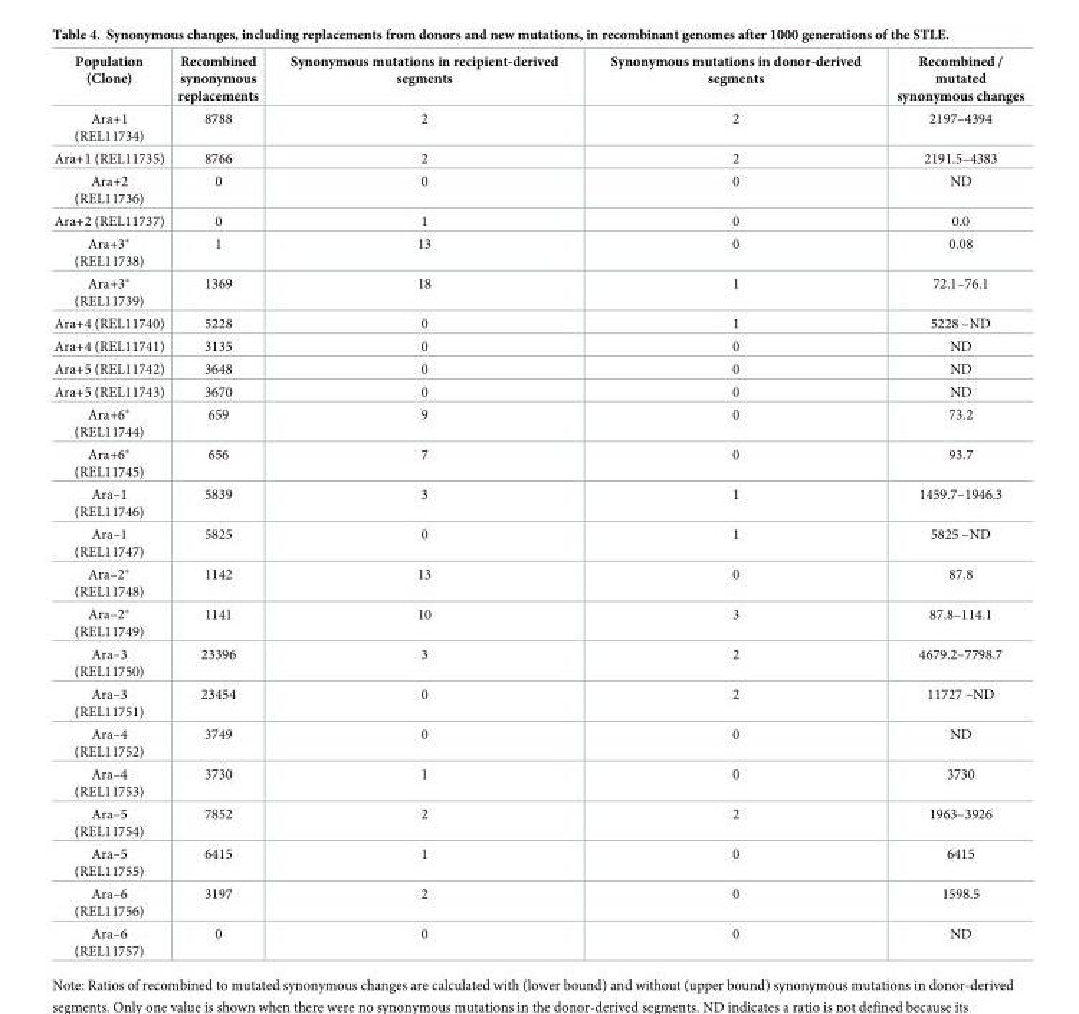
<table><thead><tr><td>Population (Clone)</td><td>Recombined synonymous replacements</td><td>Synonymous mutations in recipient-derived segments</td><td>Synonymous mutations in donor-derived segments</td><td>Recombined / mutated synonymous changes</td></tr></thead><tbody><tr><td>Ara+1 (REL11734)</td><td>8788</td><td>2</td><td>2</td><td>2197–4394</td></tr><tr><td>Ara+1 (REL11735)</td><td>8766</td><td>2</td><td>2</td><td>2191.5–4383</td></tr><tr><td>Ara+2 (REL11736)</td><td>0</td><td>0</td><td>0</td><td>ND</td></tr><tr><td>Ara+2 (REL11737)</td><td>0</td><td>1</td><td>0</td><td>0.0</td></tr><tr><td>Ara+3* (REL11738)</td><td>1</td><td>13</td><td>0</td><td>0.08</td></tr><tr><td>Ara+3* (REL11739)</td><td>1369</td><td>18</td><td>1</td><td>72.1–76.1</td></tr><tr><td>Ara+4 (REL11740)</td><td>5228</td><td>0</td><td>1</td><td>5228 –ND</td></tr><tr><td>Ara+4 (REL11741)</td><td>3135</td><td>0</td><td>0</td><td>ND</td></tr><tr><td>Ara+5 (REL11742)</td><td>3648</td><td>0</td><td>0</td><td>ND</td></tr><tr><td>Ara+5 (REL11743)</td><td>3670</td><td>0</td><td>0</td><td>ND</td></tr><tr><td>Ara+6* (REL11744)</td><td>659</td><td>9</td><td>0</td><td>73.2</td></tr><tr><td>Ara+6* (REL11745)</td><td>656</td><td>7</td><td>0</td><td>93.7</td></tr><tr><td>Ara–1 (REL11746)</td><td>5839</td><td>3</td><td>1</td><td>1459.7–1946.3</td></tr><tr><td>Ara–1 (REL11747)</td><td>5825</td><td>0</td><td>1</td><td>5825 –ND</td></tr><tr><td>Ara–2* (REL11748)</td><td>1142</td><td>13</td><td>0</td><td>87.8</td></tr><tr><td>Ara–2* (REL11749)</td><td>1141</td><td>10</td><td>3</td><td>87.8–114.1</td></tr><tr><td>Ara–3 (REL11750)</td><td>23396</td><td>3</td><td>2</td><td>4679.2–7798.7</td></tr><tr><td>Ara–3 (REL11751)</td><td>23454</td><td>0</td><td>2</td><td>11727 –ND</td></tr><tr><td>Ara–4 (REL11752)</td><td>3749</td><td>0</td><td>0</td><td>ND</td></tr><tr><td>Ara–4 (REL11753)</td><td>3730</td><td>1</td><td>0</td><td>3730</td></tr><tr><td>Ara–5 (REL11754)</td><td>7852</td><td>2</td><td>2</td><td>1963–3926</td></tr><tr><td>Ara–5 (REL11755)</td><td>6415</td><td>1</td><td>0</td><td>6415</td></tr><tr><td>Ara–6 (REL11756)</td><td>3197</td><td>2</td><td>0</td><td>1598.5</td></tr><tr><td>Ara–6 (REL11757)</td><td>0</td><td>0</td><td>0</td><td>ND</td></tr></tbody></table>